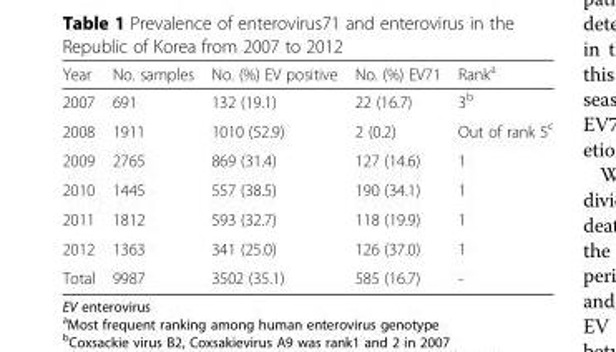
<table><thead><tr><td>Year</td><td>No. samples</td><td>No. (%) EV positive</td><td>No. (%) EV71</td><td>Rank<sup>a</sup></td></tr></thead><tbody><tr><td>2007</td><td>691</td><td>132 (19.1)</td><td>22 (16.7)</td><td>3<sup>b</sup></td></tr><tr><td>2008</td><td>1911</td><td>1010 (52.9)</td><td>2 (0.2)</td><td>Out of rank 5<sup>c</sup></td></tr><tr><td>2009</td><td>2765</td><td>869 (31.4)</td><td>127 (14.6)</td><td>1</td></tr><tr><td>2010</td><td>1445</td><td>557 (38.5)</td><td>190 (34.1)</td><td>1</td></tr><tr><td>2011</td><td>1812</td><td>593 (32.7)</td><td>118 (19.9)</td><td>1</td></tr><tr><td>2012</td><td>1363</td><td>341 (25.0)</td><td>126 (37.0)</td><td>1</td></tr><tr><td>Total</td><td>9987</td><td>3502 (35.1)</td><td>585 (16.7)</td><td>-</td></tr></tbody></table>